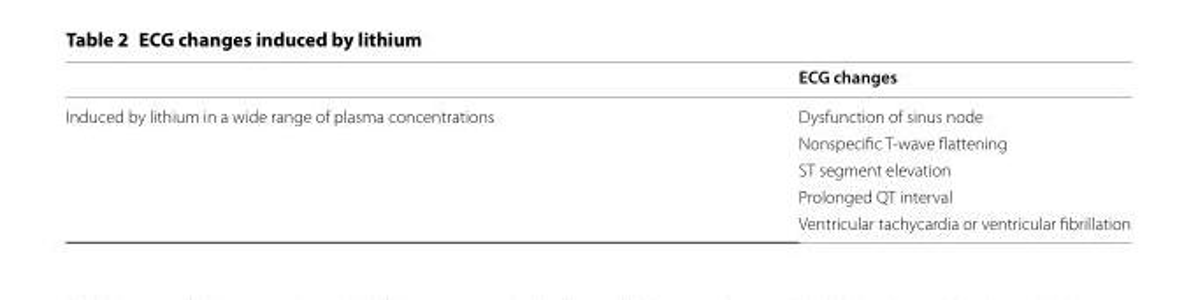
<table><thead><tr><td></td><td>ECG changes</td></tr></thead><tbody><tr><td rowspan="5">Induced by lithium in a wide range of plasma concentrations</td><td>Dysfunction of sinus node</td></tr><tr><td>Nonspecific T-wave flattening</td></tr><tr><td>ST segment elevation</td></tr><tr><td>Prolonged QT interval</td></tr><tr><td>Ventricular tachycardia or ventricular fibrillation</td></tr></tbody></table>